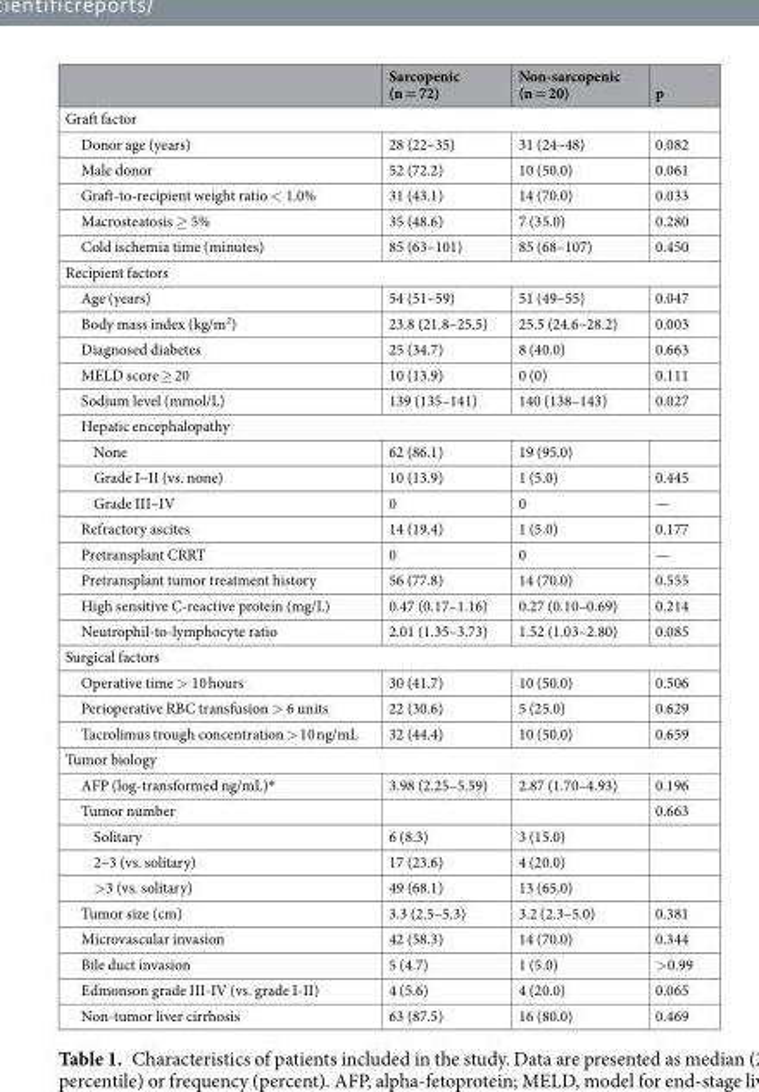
<table><thead><tr><td></td><td>Sarcopenic (n = 72)</td><td>Non-sarcopenic (n = 20)</td><td>p</td></tr></thead><tbody><tr><td colspan="4">Graft factor</td></tr><tr><td>Donor age (years)</td><td>28 (22–35)</td><td>31 (24–48)</td><td>0.082</td></tr><tr><td>Male donor</td><td>52 (72.2)</td><td>10 (50.0)</td><td>0.061</td></tr><tr><td>Graft-to-recipient weight ratio &lt; 1.0%</td><td>31 (43.1)</td><td>14 (70.0)</td><td>0.033</td></tr><tr><td>Macrosteatosis ≥ 5%</td><td>35 (48.6)</td><td>7 (35.0)</td><td>0.280</td></tr><tr><td>Cold ischemia time (minutes)</td><td>85 (63–101)</td><td>85 (68–107)</td><td>0.450</td></tr><tr><td colspan="4">Recipient factors</td></tr><tr><td>Age (years)</td><td>54 (51–59)</td><td>51 (49–55)</td><td>0.047</td></tr><tr><td>Body mass index (kg/m<sup>2</sup>)</td><td>23.8 (21.8–25.5)</td><td>25.5 (24.6–28.2)</td><td>0.003</td></tr><tr><td>Diagnosed diabetes</td><td>25 (34.7)</td><td>8 (40.0)</td><td>0.663</td></tr><tr><td>MELD score ≥ 20</td><td>10 (13.9)</td><td>0 (0)</td><td>0.111</td></tr><tr><td>Sodium level (mmol/L)</td><td>139 (135–141)</td><td>140 (138–143)</td><td>0.027</td></tr><tr><td colspan="4">Hepatic encephalopathy</td></tr><tr><td>None</td><td>62 (86.1)</td><td>19 (95.0)</td><td></td></tr><tr><td>Grade I–II (vs. none)</td><td>10 (13.9)</td><td>1 (5.0)</td><td>0.445</td></tr><tr><td>Grade III–IV</td><td>0</td><td>0</td><td>—</td></tr><tr><td>Refractory ascites</td><td>14 (19.4)</td><td>1 (5.0)</td><td>0.177</td></tr><tr><td>Pretransplant CRRT</td><td>0</td><td>0</td><td>—</td></tr><tr><td>Pretransplant tumor treatment history</td><td>56 (77.8)</td><td>14 (70.0)</td><td>0.555</td></tr><tr><td>High sensitive C-reactive protein (mg/L)</td><td>0.47 (0.17–1.16)</td><td>0.27 (0.10–0.69)</td><td>0.214</td></tr><tr><td>Neutrophil-to-lymphocyte ratio</td><td>2.01 (1.35–3.73)</td><td>1.52 (1.03–2.80)</td><td>0.085</td></tr><tr><td colspan="4">Surgical factors</td></tr><tr><td>Operative time &gt; 10 hours</td><td>30 (41.7)</td><td>10 (50.0)</td><td>0.506</td></tr><tr><td>Perioperative RBC transfusion &gt; 6 units</td><td>22 (30.6)</td><td>5 (25.0)</td><td>0.629</td></tr><tr><td>Tacrolimus trough concentration &gt; 10 ng/mL</td><td>32 (44.4)</td><td>10 (50.0)</td><td>0.659</td></tr><tr><td colspan="4">Tumor biology</td></tr><tr><td>AFP (log-transformed ng/mL)*</td><td>3.98 (2.25–5.59)</td><td>2.87 (1.70–4.93)</td><td>0.196</td></tr><tr><td>Tumor number</td><td></td><td></td><td>0.663</td></tr><tr><td>Solitary</td><td>6 (8.3)</td><td>3 (15.0)</td><td></td></tr><tr><td>2–3 (vs. solitary)</td><td>17 (23.6)</td><td>4 (20.0)</td><td></td></tr><tr><td>&gt;3 (vs. solitary)</td><td>49 (68.1)</td><td>13 (65.0)</td><td></td></tr><tr><td>Tumor size (cm)</td><td>3.3 (2.5–5.3)</td><td>3.2 (2.3–5.0)</td><td>0.381</td></tr><tr><td>Microvascular invasion</td><td>42 (58.3)</td><td>14 (70.0)</td><td>0.344</td></tr><tr><td>Bile duct invasion</td><td>5 (4.7)</td><td>1 (5.0)</td><td>&gt;0.99</td></tr><tr><td>Edmonson grade III-IV (vs. grade I-II)</td><td>4 (5.6)</td><td>4 (20.0)</td><td>0.065</td></tr><tr><td>Non-tumor liver cirrhosis</td><td>63 (87.5)</td><td>16 (80.0)</td><td>0.469</td></tr></tbody></table>